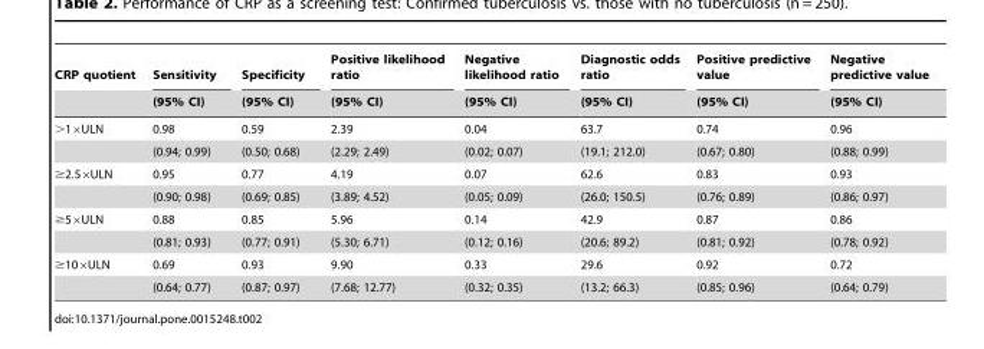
<table><thead><tr><td rowspan="2">CRP quotient</td><td rowspan="2">Sensitivity (95% CI)</td><td rowspan="2">Specificity (95% CI)</td><td rowspan="2">Positive likelihood ratio (95% CI)</td><td rowspan="2">Negative likelihood ratio (95% CI)</td><td rowspan="2">Diagnostic odds ratio (95% CI)</td><td rowspan="2">Positive predictive value (95% CI)</td><td rowspan="2">Negative predictive value (95% CI)</td></tr><tr></tr></thead><tbody><tr><td rowspan="2">&gt;1×ULN</td><td>0.98</td><td>0.59</td><td>2.39</td><td>0.04</td><td>63.7</td><td>0.74</td><td>0.96</td></tr><tr><td>(0.94; 0.99)</td><td>(0.50; 0.68)</td><td>(2.29; 2.49)</td><td>(0.02; 0.07)</td><td>(19.1; 212.0)</td><td>(0.67; 0.80)</td><td>(0.88; 0.99)</td></tr><tr><td rowspan="2">≥2.5×ULN</td><td>0.95</td><td>0.77</td><td>4.19</td><td>0.07</td><td>62.6</td><td>0.83</td><td>0.93</td></tr><tr><td>(0.90; 0.98)</td><td>(0.69; 0.85)</td><td>(3.89; 4.52)</td><td>(0.05; 0.09)</td><td>(26.0; 150.5)</td><td>(0.76; 0.89)</td><td>(0.86; 0.97)</td></tr><tr><td rowspan="2">≥5×ULN</td><td>0.88</td><td>0.85</td><td>5.96</td><td>0.14</td><td>42.9</td><td>0.87</td><td>0.86</td></tr><tr><td>(0.81; 0.93)</td><td>(0.77; 0.91)</td><td>(5.30; 6.71)</td><td>(0.12; 0.16)</td><td>(20.6; 89.2)</td><td>(0.81; 0.92)</td><td>(0.78; 0.92)</td></tr><tr><td rowspan="2">≥10×ULN</td><td>0.69</td><td>0.93</td><td>9.90</td><td>0.33</td><td>29.6</td><td>0.92</td><td>0.72</td></tr><tr><td>(0.64; 0.77)</td><td>(0.87; 0.97)</td><td>(7.68; 12.77)</td><td>(0.32; 0.35)</td><td>(13.2; 66.3)</td><td>(0.85; 0.96)</td><td>(0.64; 0.79)</td></tr></tbody></table>